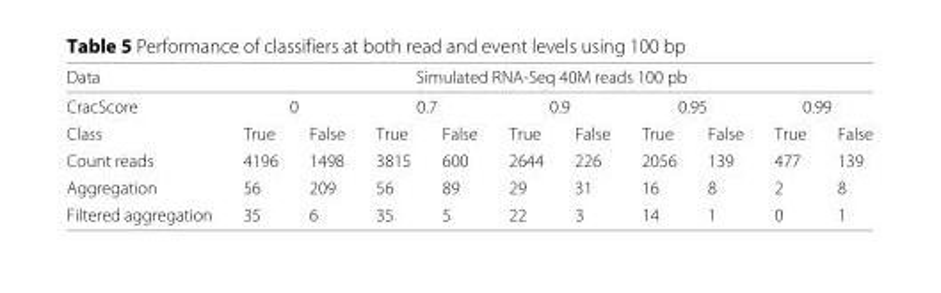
<table><thead><tr><td rowspan="3">Data CracScore Class</td><td colspan="10">Simulated RNA-Seq 40M reads 100 pb</td></tr><tr><td colspan="2">0</td><td colspan="2">0.7</td><td colspan="2">0.9</td><td colspan="2">0.95</td><td colspan="2">0.99</td></tr><tr><td>True</td><td>False</td><td>True</td><td>False</td><td>True</td><td>False</td><td>True</td><td>False</td><td>True</td><td>False</td></tr></thead><tbody><tr><td>Count reads</td><td>4196</td><td>1498</td><td>3815</td><td>600</td><td>2644</td><td>226</td><td>2056</td><td>139</td><td>477</td><td>139</td></tr><tr><td>Aggregation</td><td>56</td><td>209</td><td>56</td><td>89</td><td>29</td><td>31</td><td>16</td><td>8</td><td>2</td><td>8</td></tr><tr><td>Filtered aggregation</td><td>35</td><td>6</td><td>35</td><td>5</td><td>22</td><td>3</td><td>14</td><td>1</td><td>0</td><td>1</td></tr></tbody></table>